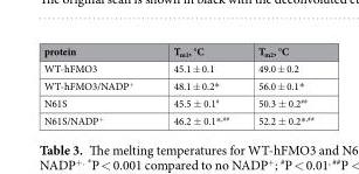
<table><thead><tr><td>protein</td><td>T<sub>m1</sub>, °C</td><td>T<sub>m2</sub>, °C</td></tr></thead><tbody><tr><td>WT-hFMO3</td><td>45.1 ± 0.1</td><td>49.0 ± 0.2</td></tr><tr><td>WT-hFMO3/NADP<sup>+</sup></td><td>48.1 ± 0.2*</td><td>56.0 ± 0.1*</td></tr><tr><td>N61S</td><td>45.5 ± 0.1<sup>#</sup></td><td>50.3 ± 0.2<sup>##</sup></td></tr><tr><td>N61S/NADP<sup>+</sup></td><td>46.2 ± 0.1*<sup>,##</sup></td><td>52.2 ± 0.2*<sup>,##</sup></td></tr></tbody></table>